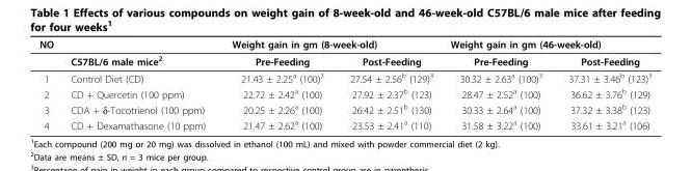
<table><thead><tr><td rowspan="2">NO</td><td rowspan="2">C57BL/6 male mice<sup>2</sup></td><td colspan="2">Weight gain in gm (8-week-old)</td><td colspan="2">Weight gain in gm (46-week-old)</td></tr><tr><td>Pre-Feeding</td><td>Post-Feeding</td><td>Pre-Feeding</td><td>Post-Feeding</td></tr></thead><tbody><tr><td>1</td><td>Control Diet (CD)</td><td>21.43 ± 2.25<sup>a</sup> (100)<sup>3</sup></td><td>27.54 ± 2.56<sup>b</sup> (129)<sup>3</sup></td><td>30.32 ± 2.63<sup>a</sup> (100)<sup>3</sup></td><td>37.31 ± 3.46<sup>b</sup> (123)<sup>3</sup></td></tr><tr><td>2</td><td>CD + Quercetin (100 ppm)</td><td>22.72 ± 2.42<sup>a</sup> (100)</td><td>27.92 ± 2.37<sup>b</sup> (123)</td><td>28.47 ± 2.52<sup>a</sup> (100)</td><td>36.62 ± 3.76<sup>b</sup> (129)</td></tr><tr><td>3</td><td>CDA + δ-Tocotrienol (100 ppm)</td><td>20.25 ± 2.26<sup>a</sup> (100)</td><td>26.42 ± 2.51<sup>b</sup> (130)</td><td>30.33 ± 2.64<sup>a</sup> (100)</td><td>37.32 ± 3.38<sup>b</sup> (123)</td></tr><tr><td>4</td><td>CD + Dexamathasone (10 ppm)</td><td>21.47 ± 2.62<sup>a</sup> (100)</td><td>23.53 ± 2.41<sup>a</sup> (110)</td><td>31.58 ± 3.22<sup>a</sup> (100)</td><td>33.61 ± 3.21<sup>a</sup> (106)</td></tr></tbody></table>